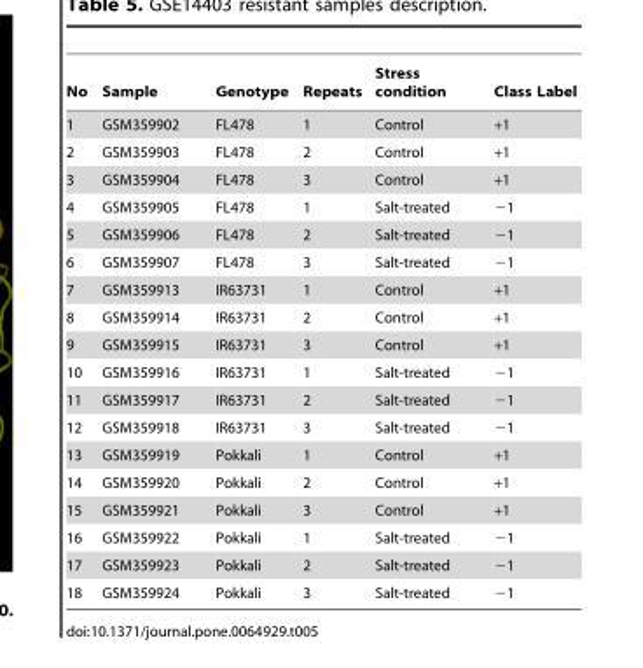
<table><thead><tr><td>No</td><td>Sample</td><td>Genotype</td><td>Repeats</td><td>Stress condition</td><td>Class Label</td></tr></thead><tbody><tr><td>1</td><td>GSM359902</td><td>FL478</td><td>1</td><td>Control</td><td>+1</td></tr><tr><td>2</td><td>GSM359903</td><td>FL478</td><td>2</td><td>Control</td><td>+1</td></tr><tr><td>3</td><td>GSM359904</td><td>FL478</td><td>3</td><td>Control</td><td>+1</td></tr><tr><td>4</td><td>GSM359905</td><td>FL478</td><td>1</td><td>Salt-treated</td><td>−1</td></tr><tr><td>5</td><td>GSM359906</td><td>FL478</td><td>2</td><td>Salt-treated</td><td>−1</td></tr><tr><td>6</td><td>GSM359907</td><td>FL478</td><td>3</td><td>Salt-treated</td><td>−1</td></tr><tr><td>7</td><td>GSM359913</td><td>IR63731</td><td>1</td><td>Control</td><td>+1</td></tr><tr><td>8</td><td>GSM359914</td><td>IR63731</td><td>2</td><td>Control</td><td>+1</td></tr><tr><td>9</td><td>GSM359915</td><td>IR63731</td><td>3</td><td>Control</td><td>+1</td></tr><tr><td>10</td><td>GSM359916</td><td>IR63731</td><td>1</td><td>Salt-treated</td><td>−1</td></tr><tr><td>11</td><td>GSM359917</td><td>IR63731</td><td>2</td><td>Salt-treated</td><td>−1</td></tr><tr><td>12</td><td>GSM359918</td><td>IR63731</td><td>3</td><td>Salt-treated</td><td>−1</td></tr><tr><td>13</td><td>GSM359919</td><td>Pokkali</td><td>1</td><td>Control</td><td>+1</td></tr><tr><td>14</td><td>GSM359920</td><td>Pokkali</td><td>2</td><td>Control</td><td>+1</td></tr><tr><td>15</td><td>GSM359921</td><td>Pokkali</td><td>3</td><td>Control</td><td>+1</td></tr><tr><td>16</td><td>GSM359922</td><td>Pokkali</td><td>1</td><td>Salt-treated</td><td>−1</td></tr><tr><td>17</td><td>GSM359923</td><td>Pokkali</td><td>2</td><td>Salt-treated</td><td>−1</td></tr><tr><td>18</td><td>GSM359924</td><td>Pokkali</td><td>3</td><td>Salt-treated</td><td>−1</td></tr></tbody></table>